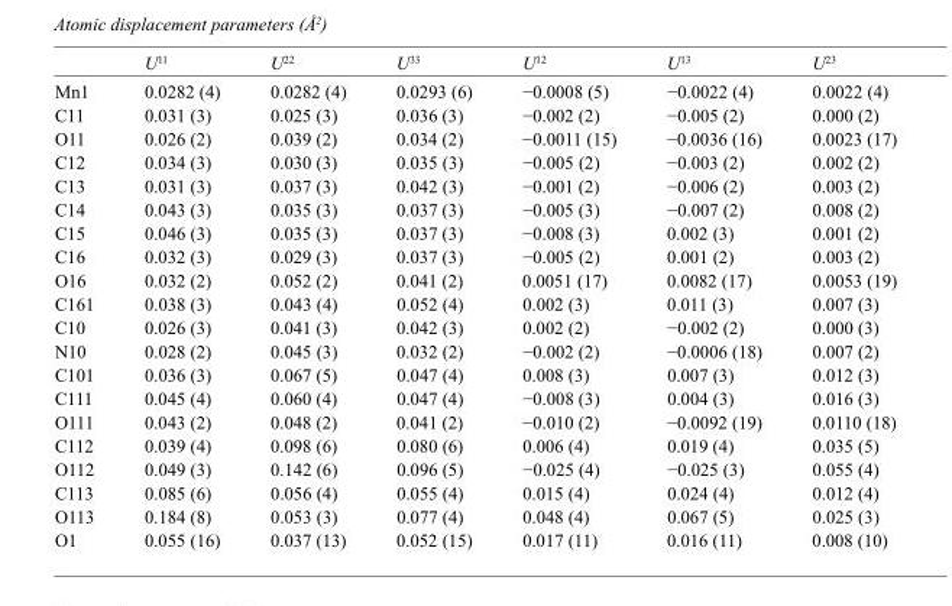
<table><thead><tr><td></td><td>U<sup>11</sup></td><td>U<sup>22</sup></td><td>U<sup>33</sup></td><td>U<sup>12</sup></td><td>U<sup>13</sup></td><td>U<sup>23</sup></td></tr></thead><tbody><tr><td>Mn1</td><td>0.0282 (4)</td><td>0.0282 (4)</td><td>0.0293 (6)</td><td>−0.0008 (5)</td><td>−0.0022 (4)</td><td>0.0022 (4)</td></tr><tr><td>C11</td><td>0.031 (3)</td><td>0.025 (3)</td><td>0.036 (3)</td><td>−0.002 (2)</td><td>−0.005 (2)</td><td>0.000 (2)</td></tr><tr><td>O11</td><td>0.026 (2)</td><td>0.039 (2)</td><td>0.034 (2)</td><td>−0.0011 (15)</td><td>−0.0036 (16)</td><td>0.0023 (17)</td></tr><tr><td>C12</td><td>0.034 (3)</td><td>0.030 (3)</td><td>0.035 (3)</td><td>−0.005 (2)</td><td>−0.003 (2)</td><td>0.002 (2)</td></tr><tr><td>C13</td><td>0.031 (3)</td><td>0.037 (3)</td><td>0.042 (3)</td><td>−0.001 (2)</td><td>−0.006 (2)</td><td>0.003 (2)</td></tr><tr><td>C14</td><td>0.043 (3)</td><td>0.035 (3)</td><td>0.037 (3)</td><td>−0.005 (3)</td><td>−0.007 (2)</td><td>0.008 (2)</td></tr><tr><td>C15</td><td>0.046 (3)</td><td>0.035 (3)</td><td>0.037 (3)</td><td>−0.008 (3)</td><td>0.002 (3)</td><td>0.001 (2)</td></tr><tr><td>C16</td><td>0.032 (3)</td><td>0.029 (3)</td><td>0.037 (3)</td><td>−0.005 (2)</td><td>0.001 (2)</td><td>0.003 (2)</td></tr><tr><td>O16</td><td>0.032 (2)</td><td>0.052 (2)</td><td>0.041 (2)</td><td>0.0051 (17)</td><td>0.0082 (17)</td><td>0.0053 (19)</td></tr><tr><td>C161</td><td>0.038 (3)</td><td>0.043 (4)</td><td>0.052 (4)</td><td>0.002 (3)</td><td>0.011 (3)</td><td>0.007 (3)</td></tr><tr><td>C10</td><td>0.026 (3)</td><td>0.041 (3)</td><td>0.042 (3)</td><td>0.002 (2)</td><td>−0.002 (2)</td><td>0.000 (3)</td></tr><tr><td>N10</td><td>0.028 (2)</td><td>0.045 (3)</td><td>0.032 (2)</td><td>−0.002 (2)</td><td>−0.0006 (18)</td><td>0.007 (2)</td></tr><tr><td>C101</td><td>0.036 (3)</td><td>0.067 (5)</td><td>0.047 (4)</td><td>0.008 (3)</td><td>0.007 (3)</td><td>0.012 (3)</td></tr><tr><td>C111</td><td>0.045 (4)</td><td>0.060 (4)</td><td>0.047 (4)</td><td>−0.008 (3)</td><td>0.004 (3)</td><td>0.016 (3)</td></tr><tr><td>O111</td><td>0.043 (2)</td><td>0.048 (2)</td><td>0.041 (2)</td><td>−0.010 (2)</td><td>−0.0092 (19)</td><td>0.0110 (18)</td></tr><tr><td>C112</td><td>0.039 (4)</td><td>0.098 (6)</td><td>0.080 (6)</td><td>0.006 (4)</td><td>0.019 (4)</td><td>0.035 (5)</td></tr><tr><td>O112</td><td>0.049 (3)</td><td>0.142 (6)</td><td>0.096 (5)</td><td>−0.025 (4)</td><td>−0.025 (3)</td><td>0.055 (4)</td></tr><tr><td>C113</td><td>0.085 (6)</td><td>0.056 (4)</td><td>0.055 (4)</td><td>0.015 (4)</td><td>0.024 (4)</td><td>0.012 (4)</td></tr><tr><td>O113</td><td>0.184 (8)</td><td>0.053 (3)</td><td>0.077 (4)</td><td>0.048 (4)</td><td>0.067 (5)</td><td>0.025 (3)</td></tr><tr><td>O1</td><td>0.055 (16)</td><td>0.037 (13)</td><td>0.052 (15)</td><td>0.017 (11)</td><td>0.016 (11)</td><td>0.008 (10)</td></tr></tbody></table>